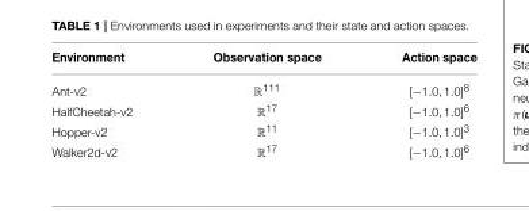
<table><thead><tr><td>Environment</td><td>Observation space</td><td>Action space</td></tr></thead><tbody><tr><td>Ant-v2</td><td>R<sup>111</sup></td><td>[−1.0, 1.0]<sup>8</sup></td></tr><tr><td>HalfCheetah-v2</td><td>R<sup>17</sup></td><td>[−1.0, 1.0]<sup>6</sup></td></tr><tr><td>Hopper-v2</td><td>R<sup>11</sup></td><td>[−1.0, 1.0]<sup>3</sup></td></tr><tr><td>Walker2d-v2</td><td>R<sup>17</sup></td><td>[−1.0, 1.0]<sup>6</sup></td></tr></tbody></table>